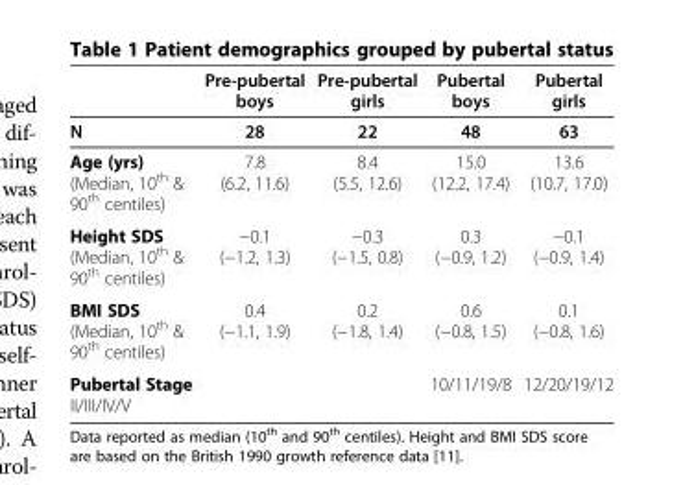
<table><thead><tr><td rowspan="2">N</td><td rowspan="2">Pre-pubertal boys 28</td><td rowspan="2">Pre-pubertal girls 22</td><td rowspan="2">Pubertal boys 48</td><td rowspan="2">Pubertal girls 63</td></tr><tr></tr></thead><tbody><tr><td>Age (yrs) (Median, 10<sup>th</sup> &amp; 90<sup>th</sup> centiles)</td><td>7.8 (6.2, 11.6)</td><td>8.4 (5.5, 12.6)</td><td>15.0 (12.2, 17.4)</td><td>13.6 (10.7, 17.0)</td></tr><tr><td>Height SDS (Median, 10<sup>th</sup> &amp; 90<sup>th</sup> centiles)</td><td>−0.1 (−1.2, 1.3)</td><td>−0.3 (−1.5, 0.8)</td><td>0.3 (−0.9, 1.2)</td><td>−0.1 (−0.9, 1.4)</td></tr><tr><td>BMI SDS (Median, 10<sup>th</sup> &amp; 90<sup>th</sup> centiles)</td><td>0.4 (−1.1, 1.9)</td><td>0.2 (−1.8, 1.4)</td><td>0.6 (−0.8, 1.5)</td><td>0.1 (−0.8, 1.6)</td></tr><tr><td>Pubertal Stage II/III/IV/V</td><td></td><td></td><td>10/11/19/8</td><td>12/20/19/12</td></tr></tbody></table>